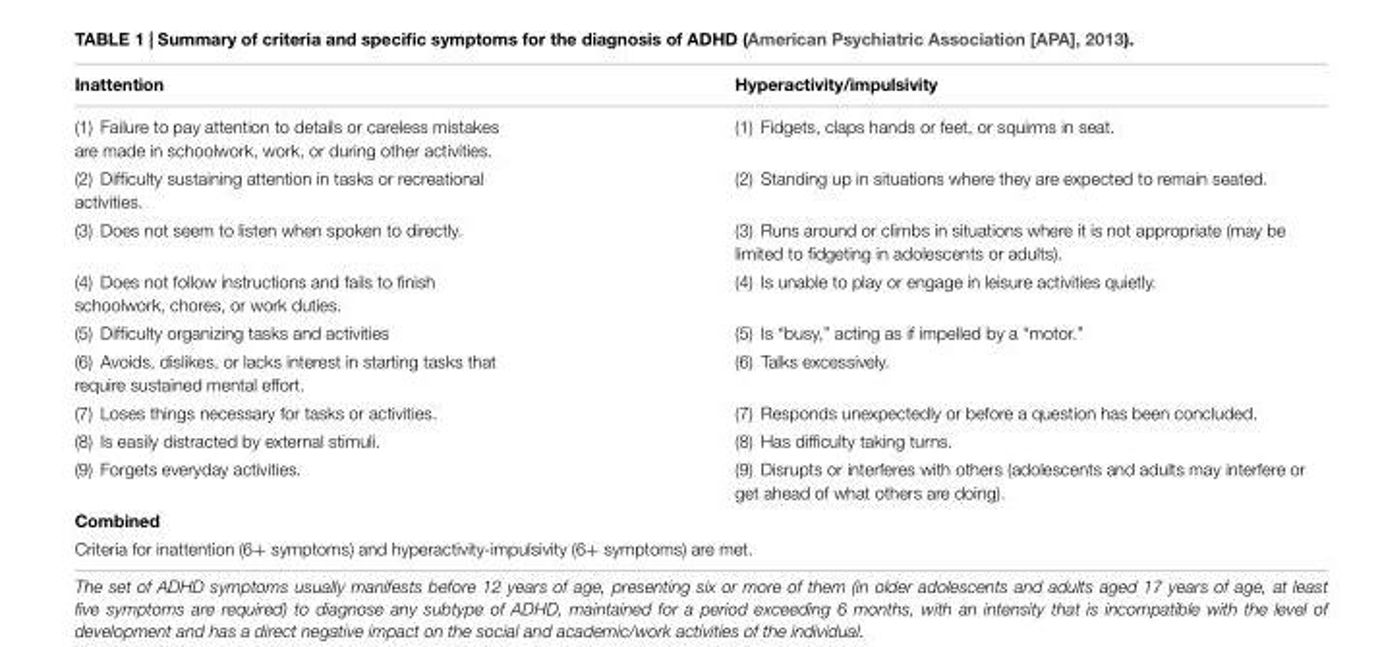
<table><thead><tr><td>Inattention</td><td>Hyperactivity/impulsivity</td></tr></thead><tbody><tr><td>(1) Failure to pay attention to details or careless mistakes are made in schoolwork, work, or during other activities.</td><td>(1) Fidgets, claps hands or feet, or squirms in seat.</td></tr><tr><td>(2) Difficulty sustaining attention in tasks or recreational activities.</td><td>(2) Standing up in situations where they are expected to remain seated.</td></tr><tr><td>(3) Does not seem to listen when spoken to directly.</td><td>(3) Runs around or climbs in situations where it is not appropriate (may be limited to fidgeting in adolescents or adults).</td></tr><tr><td>(4) Does not follow instructions and fails to finish schoolwork, chores, or work duties.</td><td>(4) Is unable to play or engage in leisure activities quietly.</td></tr><tr><td>(5) Difficulty organizing tasks and activities</td><td>(5) Is “busy,” acting as if impelled by a “motor.”</td></tr><tr><td>(6) Avoids, dislikes, or lacks interest in starting tasks that require sustained mental effort.</td><td>(6) Talks excessively.</td></tr><tr><td>(7) Loses things necessary for tasks or activities.</td><td>(7) Responds unexpectedly or before a question has been concluded.</td></tr><tr><td>(8) Is easily distracted by external stimuli.</td><td>(8) Has difficulty taking turns.</td></tr><tr><td>(9) Forgets everyday activities.</td><td>(9) Disrupts or interferes with others (adolescents and adults may interfere or get ahead of what others are doing).</td></tr><tr><td colspan="2">Combined</td></tr><tr><td colspan="2">Criteria for inattention (6+ symptoms) and hyperactivity-impulsivity (6+ symptoms) are met.</td></tr></tbody></table>